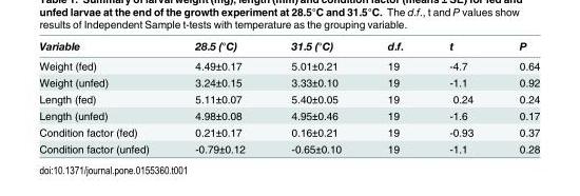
<table><thead><tr><td>Variable</td><td>28.5 (°C)</td><td>31.5 (°C)</td><td>d.f.</td><td>t</td><td>P</td></tr></thead><tbody><tr><td>Weight (fed)</td><td>4.49±0.17</td><td>5.01±0.21</td><td>19</td><td>-4.7</td><td>0.64</td></tr><tr><td>Weight (unfed)</td><td>3.24±0.15</td><td>3.33±0.10</td><td>19</td><td>-1.1</td><td>0.92</td></tr><tr><td>Length (fed)</td><td>5.11±0.07</td><td>5.40±0.05</td><td>19</td><td>0.24</td><td>0.24</td></tr><tr><td>Length (unfed)</td><td>4.98±0.08</td><td>4.95±0.46</td><td>19</td><td>-1.6</td><td>0.17</td></tr><tr><td>Condition factor (fed)</td><td>0.21±0.17</td><td>0.16±0.21</td><td>19</td><td>-0.93</td><td>0.37</td></tr><tr><td>Condition factor (unfed)</td><td>-0.79±0.12</td><td>-0.65±0.10</td><td>19</td><td>-1.1</td><td>0.28</td></tr></tbody></table>